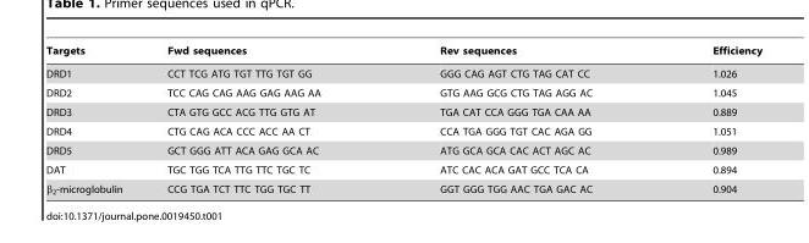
<table><thead><tr><td>Targets</td><td>Fwd sequences</td><td>Rev sequences</td><td>Efficiency</td></tr></thead><tbody><tr><td>DRD1</td><td>CCT TCG ATG TGT TTG TGT GG</td><td>GGG CAG AGT CTG TAG CAT CC</td><td>1.026</td></tr><tr><td>DRD2</td><td>TCC CAG CAG AAG GAG AAG AA</td><td>GTG AAG GCG CTG TAG AGG AC</td><td>1.045</td></tr><tr><td>DRD3</td><td>CTA GTG GCC ACG TTG GTG AT</td><td>TGA CAT CCA GGG TGA CAA AA</td><td>0.889</td></tr><tr><td>DRD4</td><td>CTG CAG ACA CCC ACC AA CT</td><td>CCA TGA GGG TGT CAC AGA GG</td><td>1.051</td></tr><tr><td>DRD5</td><td>GCT GGG ATT ACA GAG GCA AC</td><td>ATG GCA GCA CAC ACT AGC AC</td><td>0.989</td></tr><tr><td>DAT</td><td>TGC TGG TCA TTG TTC TGC TC</td><td>ATC CAC ACA GAT GCC TCA CA</td><td>0.894</td></tr><tr><td>β<sub>2</sub>-microglobulin</td><td>CCG TGA TCT TTC TGG TGC TT</td><td>GGT GGG TGG AAC TGA GAC AC</td><td>0.904</td></tr></tbody></table>